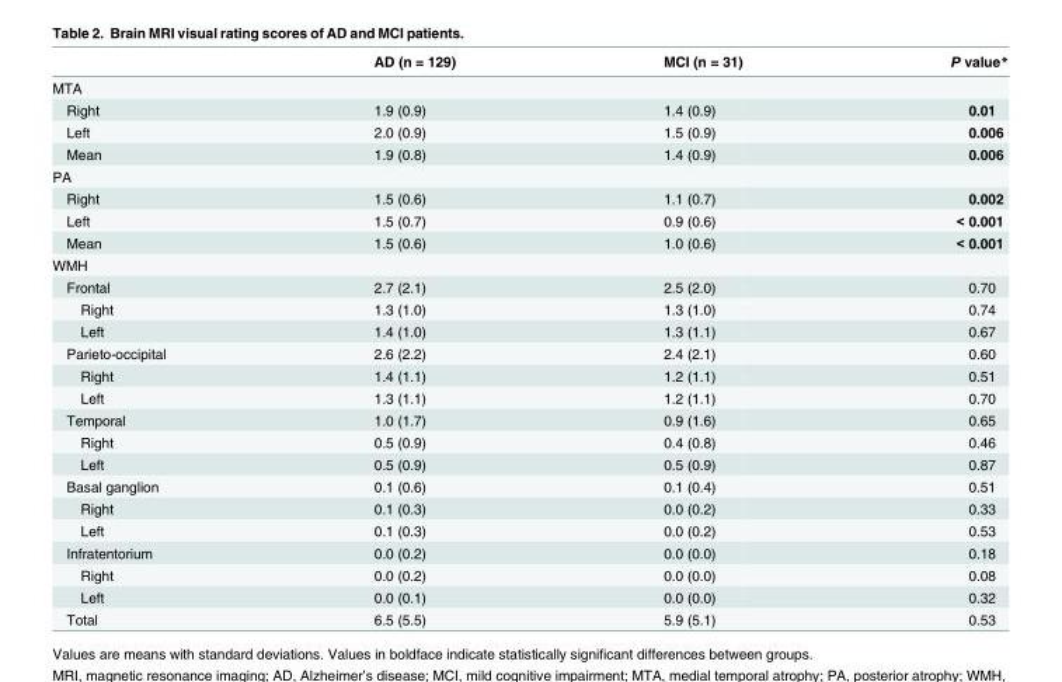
<table><thead><tr><td></td><td>AD (n = 129)</td><td>MCI (n = 31)</td><td>P value*</td></tr></thead><tbody><tr><td colspan="4">MTA</td></tr><tr><td>Right</td><td>1.9 (0.9)</td><td>1.4 (0.9)</td><td>0.01</td></tr><tr><td>Left</td><td>2.0 (0.9)</td><td>1.5 (0.9)</td><td>0.006</td></tr><tr><td>Mean</td><td>1.9 (0.8)</td><td>1.4 (0.9)</td><td>0.006</td></tr><tr><td colspan="4">PA</td></tr><tr><td>Right</td><td>1.5 (0.6)</td><td>1.1 (0.7)</td><td>0.002</td></tr><tr><td>Left</td><td>1.5 (0.7)</td><td>0.9 (0.6)</td><td>&lt; 0.001</td></tr><tr><td>Mean</td><td>1.5 (0.6)</td><td>1.0 (0.6)</td><td>&lt; 0.001</td></tr><tr><td colspan="4">WMH</td></tr><tr><td>Frontal</td><td>2.7 (2.1)</td><td>2.5 (2.0)</td><td>0.70</td></tr><tr><td>Right</td><td>1.3 (1.0)</td><td>1.3 (1.0)</td><td>0.74</td></tr><tr><td>Left</td><td>1.4 (1.0)</td><td>1.3 (1.1)</td><td>0.67</td></tr><tr><td>Parieto-occipital</td><td>2.6 (2.2)</td><td>2.4 (2.1)</td><td>0.60</td></tr><tr><td>Right</td><td>1.4 (1.1)</td><td>1.2 (1.1)</td><td>0.51</td></tr><tr><td>Left</td><td>1.3 (1.1)</td><td>1.2 (1.1)</td><td>0.70</td></tr><tr><td>Temporal</td><td>1.0 (1.7)</td><td>0.9 (1.6)</td><td>0.65</td></tr><tr><td>Right</td><td>0.5 (0.9)</td><td>0.4 (0.8)</td><td>0.46</td></tr><tr><td>Left</td><td>0.5 (0.9)</td><td>0.5 (0.9)</td><td>0.87</td></tr><tr><td>Basal ganglion</td><td>0.1 (0.6)</td><td>0.1 (0.4)</td><td>0.51</td></tr><tr><td>Right</td><td>0.1 (0.3)</td><td>0.0 (0.2)</td><td>0.33</td></tr><tr><td>Left</td><td>0.1 (0.3)</td><td>0.0 (0.2)</td><td>0.53</td></tr><tr><td>Infratentorium</td><td>0.0 (0.2)</td><td>0.0 (0.0)</td><td>0.18</td></tr><tr><td>Right</td><td>0.0 (0.2)</td><td>0.0 (0.0)</td><td>0.08</td></tr><tr><td>Left</td><td>0.0 (0.1)</td><td>0.0 (0.0)</td><td>0.32</td></tr><tr><td>Total</td><td>6.5 (5.5)</td><td>5.9 (5.1)</td><td>0.53</td></tr></tbody></table>